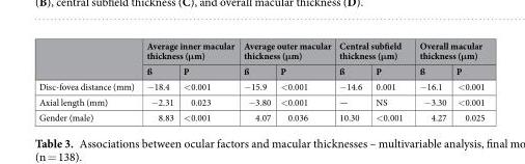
<table><thead><tr><td rowspan="2"></td><td colspan="2">Average inner macular thickness (μm)</td><td colspan="2">Average outer macular thickness (μm)</td><td colspan="2">Central subfield thickness (μm)</td><td colspan="2">Overall macular thickness (μm)</td></tr><tr><td>ß</td><td>P</td><td>ß</td><td>P</td><td>ß</td><td>P</td><td>ß</td><td>P</td></tr></thead><tbody><tr><td>Disc-fovea distance (mm)</td><td>−18.4</td><td>&lt;0.001</td><td>−15.9</td><td>&lt;0.001</td><td>−14.6</td><td>0.001</td><td>−16.1</td><td>&lt;0.001</td></tr><tr><td>Axial length (mm)</td><td>−2.31</td><td>0.023</td><td>−3.80</td><td>&lt;0.001</td><td>—</td><td>NS</td><td>−3.30</td><td>&lt;0.001</td></tr><tr><td>Gender (male)</td><td>8.83</td><td>&lt;0.001</td><td>4.07</td><td>0.036</td><td>10.30</td><td>&lt;0.001</td><td>4.27</td><td>0.025</td></tr></tbody></table>